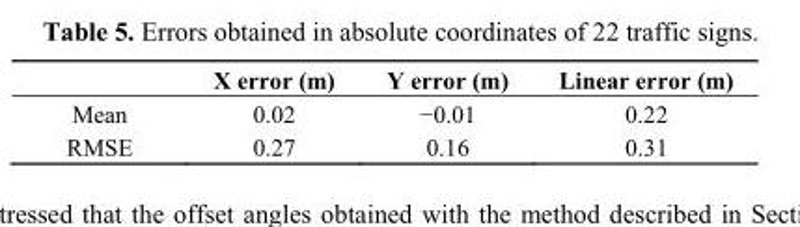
<table><thead><tr><td></td><td>X error (m)</td><td>Y error (m)</td><td>Linear error (m)</td></tr></thead><tbody><tr><td>Mean</td><td>0.02</td><td>−0.01</td><td>0.22</td></tr><tr><td>RMSE</td><td>0.27</td><td>0.16</td><td>0.31</td></tr></tbody></table>